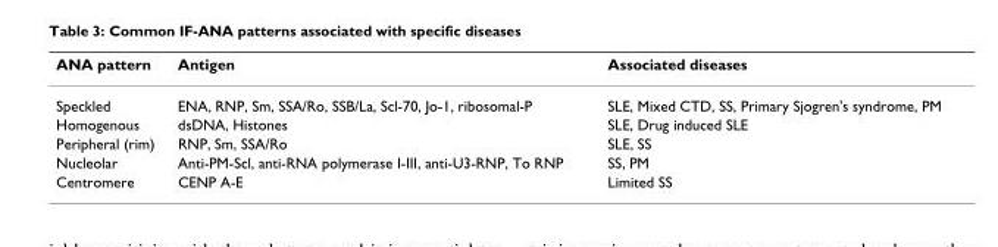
<table><thead><tr><td>ANA pattern</td><td>Antigen</td><td>Associated diseases</td></tr></thead><tbody><tr><td>Speckled</td><td>ENA, RNP, Sm, SSA/Ro, SSB/La, Scl-70, Jo-1, ribosomal-P</td><td>SLE, Mixed CTD, SS, Primary Sjogren&#x27;s syndrome, PM</td></tr><tr><td>Homogenous</td><td>dsDNA, Histones</td><td>SLE, Drug induced SLE</td></tr><tr><td>Peripheral (rim)</td><td>RNP, Sm, SSA/Ro</td><td>SLE, SS</td></tr><tr><td>Nucleolar</td><td>Anti-PM-Scl, anti-RNA polymerase I-III, anti-U3-RNP, To RNP</td><td>SS, PM</td></tr><tr><td>Centromere</td><td>CENP A-E</td><td>Limited SS</td></tr></tbody></table>